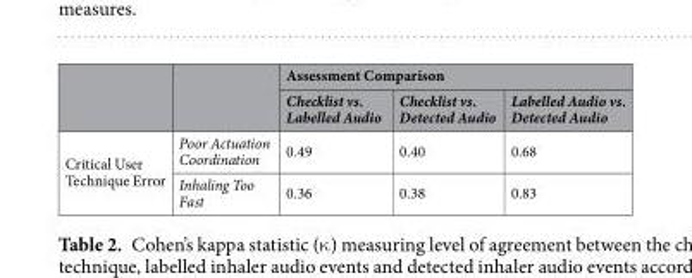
<table><thead><tr><td rowspan="2"></td><td rowspan="2"></td><td colspan="3">Assessment Comparison</td></tr><tr><td>Checklist vs. Labelled Audio</td><td>Checklist vs. Detected Audio</td><td>Labelled Audio vs. Detected Audio</td></tr></thead><tbody><tr><td rowspan="2">Critical User Technique Error</td><td>Poor Actuation Coordination</td><td>0.49</td><td>0.40</td><td>0.68</td></tr><tr><td>Inhaling Too Fast</td><td>0.36</td><td>0.38</td><td>0.83</td></tr></tbody></table>